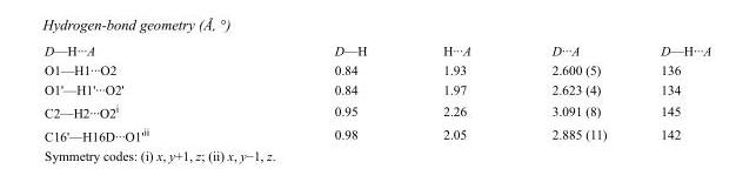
<table><tbody><tr><td>D—H···A</td><td>D—H</td><td>H···A</td><td>D···A</td><td>D—H···A</td></tr><tr><td>O1—H1···O2</td><td>0.84</td><td>1.93</td><td>2.600 (5)</td><td>136</td></tr><tr><td>O1&#x27;—H1&#x27;···O2&#x27;</td><td>0.84</td><td>1.97</td><td>2.623 (4)</td><td>134</td></tr><tr><td>C2—H2···O2<sup>i</sup></td><td>0.95</td><td>2.26</td><td>3.091 (8)</td><td>145</td></tr><tr><td>C16&#x27;—H16D···O1&#x27;<sup>ii</sup></td><td>0.98</td><td>2.05</td><td>2.885 (11)</td><td>142</td></tr></tbody></table>